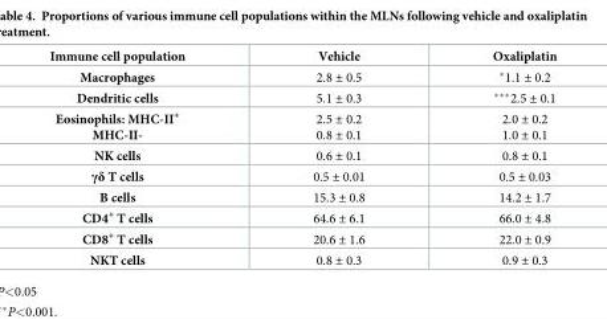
<table><thead><tr><td>Immune cell population</td><td>Vehicle</td><td>Oxaliplatin</td></tr></thead><tbody><tr><td>Macrophages</td><td>2.8 ± 0.5</td><td>*1.1 ± 0.2</td></tr><tr><td>Dendritic cells</td><td>5.1 ± 0.3</td><td>***2.5 ± 0.1</td></tr><tr><td>Eosinophils: MHC-II<sup>+</sup> MHC-II-</td><td>2.5 ± 0.2 0.8 ± 0.1</td><td>2.0 ± 0.2 1.0 ± 0.1</td></tr><tr><td>NK cells</td><td>0.6 ± 0.1</td><td>0.8 ± 0.1</td></tr><tr><td>γδ T cells</td><td>0.5 ± 0.01</td><td>0.5 ± 0.03</td></tr><tr><td>B cells</td><td>15.3 ± 0.8</td><td>14.2 ± 1.7</td></tr><tr><td>CD4<sup>+</sup> T cells</td><td>64.6 ± 6.1</td><td>66.0 ± 4.8</td></tr><tr><td>CD8<sup>+</sup> T cells</td><td>20.6 ± 1.6</td><td>22.0 ± 0.9</td></tr><tr><td>NKT cells</td><td>0.8 ± 0.3</td><td>0.9 ± 0.3</td></tr></tbody></table>